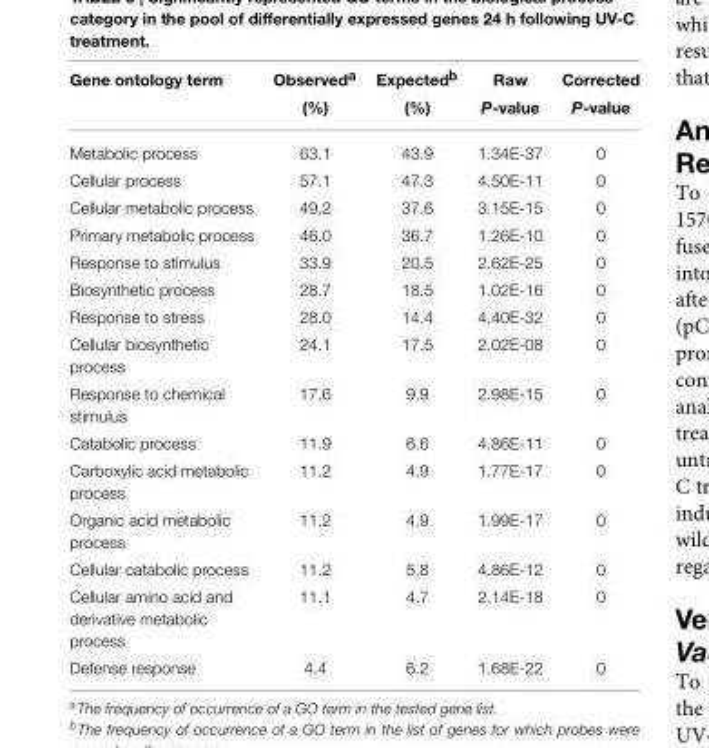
<table><thead><tr><td>Gene ontology term</td><td>Observed<sup>a</sup> (%)</td><td>Expected<sup>b</sup> (%)</td><td>Raw P-value</td><td>Corrected P-value</td></tr></thead><tbody><tr><td>Metabolic process</td><td>63.1</td><td>43.9</td><td>1.34E-37</td><td>0</td></tr><tr><td>Cellular process</td><td>57.1</td><td>47.3</td><td>4.50E-11</td><td>0</td></tr><tr><td>Cellular metabolic process</td><td>49.2</td><td>37.6</td><td>3.15E-15</td><td>0</td></tr><tr><td>Primary metabolic process</td><td>46.0</td><td>36.7</td><td>1.26E-10</td><td>0</td></tr><tr><td>Response to stimulus</td><td>33.9</td><td>20.5</td><td>2.62E-25</td><td>0</td></tr><tr><td>Biosynthetic process</td><td>28.7</td><td>18.5</td><td>1.02E-16</td><td>0</td></tr><tr><td>Response to stress</td><td>28.0</td><td>14.4</td><td>4.40E-32</td><td>0</td></tr><tr><td>Cellular biosynthetic process</td><td>24.1</td><td>17.5</td><td>2.02E-08</td><td>0</td></tr><tr><td>Response to chemical stimulus</td><td>17.6</td><td>9.9</td><td>2.98E-15</td><td>0</td></tr><tr><td>Catabolic process</td><td>11.9</td><td>6.6</td><td>4.86E-11</td><td>0</td></tr><tr><td>Carboxylic acid metabolic process</td><td>11.2</td><td>4.9</td><td>1.77E-17</td><td>0</td></tr><tr><td>Organic acid metabolic process</td><td>11.2</td><td>4.9</td><td>1.99E-17</td><td>0</td></tr><tr><td>Cellular catabolic process</td><td>11.2</td><td>5.8</td><td>4.86E-12</td><td>0</td></tr><tr><td>Cellular amino acid and derivative metabolic process</td><td>11.1</td><td>4.7</td><td>2.14E-18</td><td>0</td></tr><tr><td>Defense response</td><td>4.4</td><td>6.2</td><td>1.68E-22</td><td>0</td></tr></tbody></table>